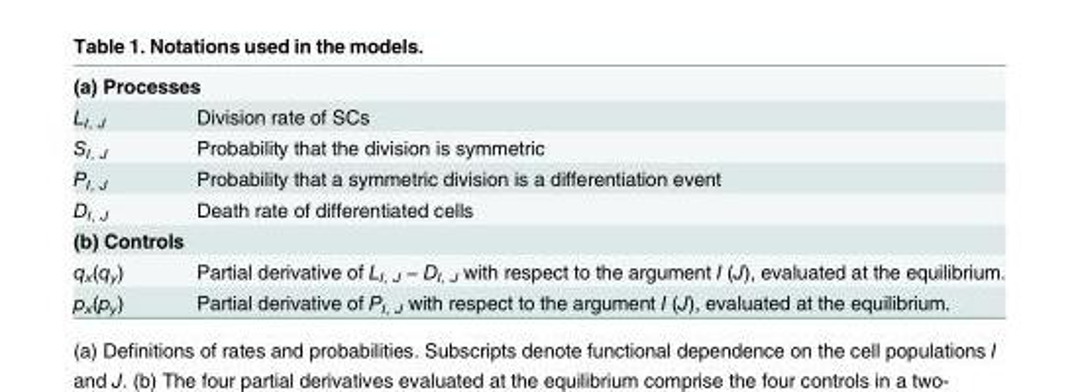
<table><tbody><tr><td colspan="2">(a) Processes</td></tr><tr><td>L<sub>I, J</sub></td><td>Division rate of SCs</td></tr><tr><td>S<sub>I, J</sub></td><td>Probability that the division is symmetric</td></tr><tr><td>P<sub>I, J</sub></td><td>Probability that a symmetric division is a differentiation event</td></tr><tr><td>D<sub>I, J</sub></td><td>Death rate of differentiated cells</td></tr><tr><td colspan="2">(b) Controls</td></tr><tr><td>q<sub>x</sub>(q<sub>y</sub>)</td><td>Partial derivative of L<sub>I, J</sub> − D<sub>I, J</sub> with respect to the argument I (J), evaluated at the equilibrium.</td></tr><tr><td>p<sub>x</sub>(p<sub>y</sub>)</td><td>Partial derivative of P<sub>I, J</sub> with respect to the argument I (J), evaluated at the equilibrium.</td></tr></tbody></table>